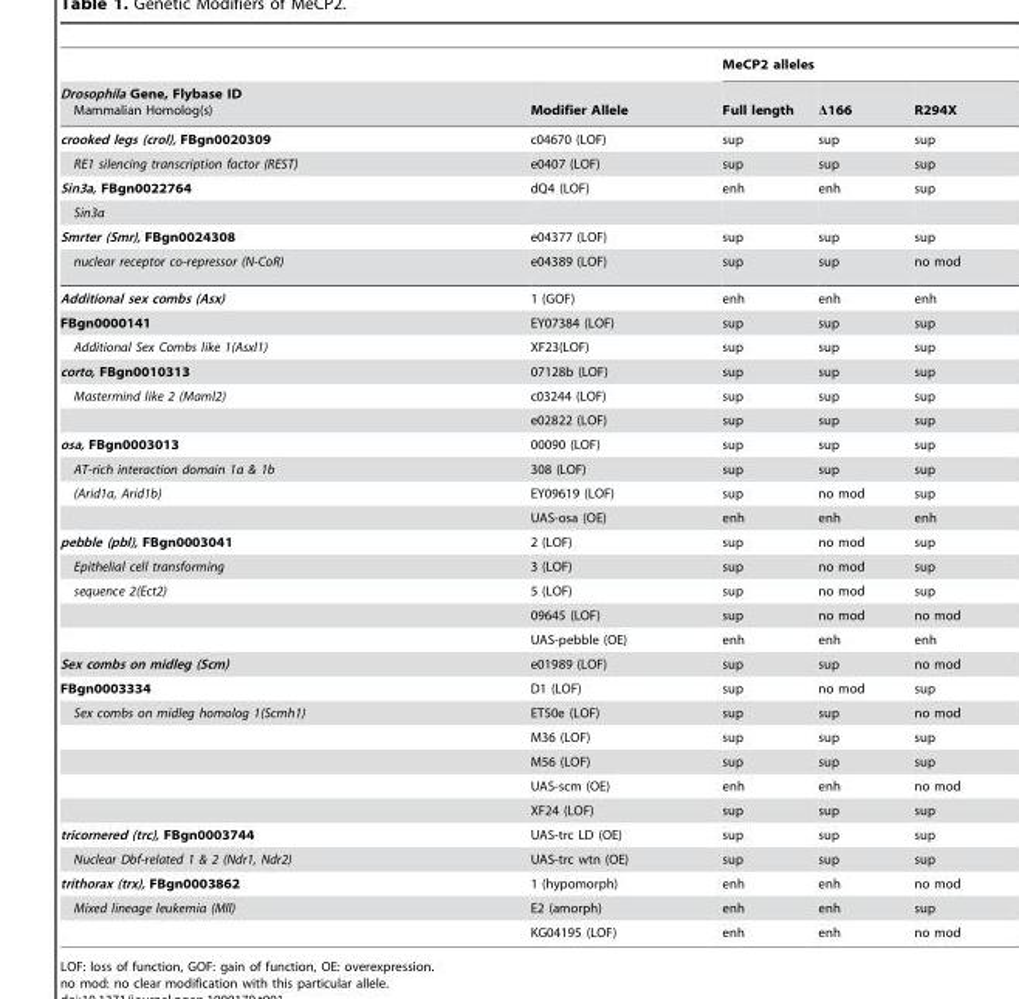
<table><thead><tr><td rowspan="2">Drosophila Gene, Flybase ID Mammalian Homolog(s)</td><td rowspan="2">Modifier Allele</td><td colspan="3">MeCP2 alleles</td></tr><tr><td>Full length</td><td>Δ166</td><td>R294X</td></tr></thead><tbody><tr><td>crooked legs (crol), FBgn0020309</td><td>c04670 (LOF)</td><td>sup</td><td>sup</td><td>sup</td></tr><tr><td>RE1 silencing transcription factor (REST)</td><td>e0407 (LOF)</td><td>sup</td><td>sup</td><td>sup</td></tr><tr><td>Sin3a, FBgn0022764</td><td>dQ4 (LOF)</td><td>enh</td><td>enh</td><td>sup</td></tr><tr><td colspan="5">Sin3a</td></tr><tr><td>Smrter (Smr), FBgn0024308</td><td>e04377 (LOF)</td><td>sup</td><td>sup</td><td>sup</td></tr><tr><td>nuclear receptor co-repressor (N-CoR)</td><td>e04389 (LOF)</td><td>sup</td><td>sup</td><td>no mod</td></tr><tr><td>Additional sex combs (Asx)</td><td>1 (GOF)</td><td>enh</td><td>enh</td><td>enh</td></tr><tr><td>FBgn0000141</td><td>EY07384 (LOF)</td><td>sup</td><td>sup</td><td>sup</td></tr><tr><td>Additional Sex Combs like 1(Asxl1)</td><td>XF23(LOF)</td><td>sup</td><td>sup</td><td>sup</td></tr><tr><td>corto, FBgn0010313</td><td>07128b (LOF)</td><td>sup</td><td>sup</td><td>sup</td></tr><tr><td rowspan="2">Mastermind like 2 (Maml2)</td><td>c03244 (LOF)</td><td>sup</td><td>sup</td><td>sup</td></tr><tr><td>e02822 (LOF)</td><td>sup</td><td>sup</td><td>sup</td></tr><tr><td>osa, FBgn0003013</td><td>00090 (LOF)</td><td>sup</td><td>sup</td><td>sup</td></tr><tr><td>AT-rich interaction domain 1a &amp; 1b</td><td>308 (LOF)</td><td>sup</td><td>sup</td><td>sup</td></tr><tr><td rowspan="2">(Arid1a, Arid1b)</td><td>EY09619 (LOF)</td><td>sup</td><td>no mod</td><td>sup</td></tr><tr><td>UAS-osa (OE)</td><td>enh</td><td>enh</td><td>enh</td></tr><tr><td>pebble (pbl), FBgn0003041</td><td>2 (LOF)</td><td>sup</td><td>no mod</td><td>sup</td></tr><tr><td>Epithelial cell transforming</td><td>3 (LOF)</td><td>sup</td><td>no mod</td><td>sup</td></tr><tr><td rowspan="3">sequence 2(Ect2)</td><td>5 (LOF)</td><td>sup</td><td>no mod</td><td>sup</td></tr><tr><td>09645 (LOF)</td><td>sup</td><td>no mod</td><td>no mod</td></tr><tr><td>UAS-pebble (OE)</td><td>enh</td><td>enh</td><td>enh</td></tr><tr><td>Sex combs on midleg (Scm)</td><td>e01989 (LOF)</td><td>sup</td><td>sup</td><td>no mod</td></tr><tr><td>FBgn0003334</td><td>D1 (LOF)</td><td>sup</td><td>no mod</td><td>sup</td></tr><tr><td rowspan="5">Sex combs on midleg homolog 1(Scmh1)</td><td>ET50e (LOF)</td><td>sup</td><td>sup</td><td>no mod</td></tr><tr><td>M36 (LOF)</td><td>sup</td><td>sup</td><td>sup</td></tr><tr><td>M56 (LOF)</td><td>sup</td><td>sup</td><td>sup</td></tr><tr><td>UAS-scm (OE)</td><td>enh</td><td>enh</td><td>no mod</td></tr><tr><td>XF24 (LOF)</td><td>sup</td><td>sup</td><td>sup</td></tr><tr><td>tricornered (trc), FBgn0003744</td><td>UAS-trc LD (OE)</td><td>sup</td><td>sup</td><td>sup</td></tr><tr><td>Nuclear Dbf-related 1 &amp; 2 (Ndr1, Ndr2)</td><td>UAS-trc wtn (OE)</td><td>sup</td><td>sup</td><td>sup</td></tr><tr><td>trithorax (trx), FBgn0003862</td><td>1 (hypomorph)</td><td>enh</td><td>enh</td><td>no mod</td></tr><tr><td rowspan="2">Mixed lineage leukemia (Mll)</td><td>E2 (amorph)</td><td>enh</td><td>enh</td><td>sup</td></tr><tr><td>KG04195 (LOF)</td><td>enh</td><td>enh</td><td>no mod</td></tr></tbody></table>